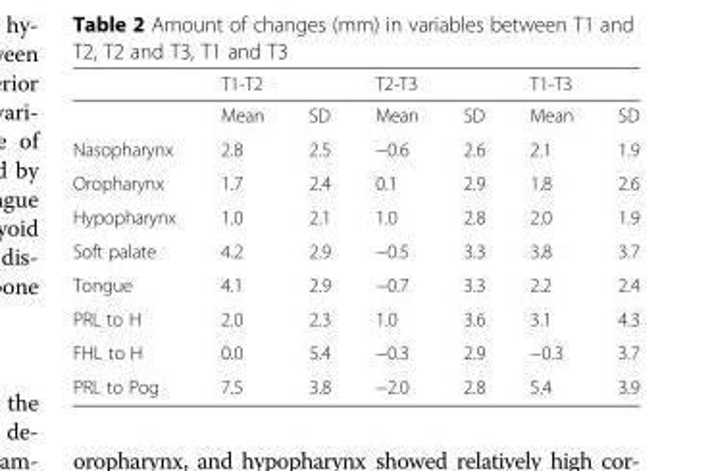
<table><thead><tr><td rowspan="2"></td><td colspan="2">T1-T2</td><td colspan="2">T2-T3</td><td colspan="2">T1-T3</td></tr><tr><td>Mean</td><td>SD</td><td>Mean</td><td>SD</td><td>Mean</td><td>SD</td></tr></thead><tbody><tr><td>Nasopharynx</td><td>2.8</td><td>2.5</td><td>−0.6</td><td>2.6</td><td>2.1</td><td>1.9</td></tr><tr><td>Oropharynx</td><td>1.7</td><td>2.4</td><td>0.1</td><td>2.9</td><td>1.8</td><td>2.6</td></tr><tr><td>Hypopharynx</td><td>1.0</td><td>2.1</td><td>1.0</td><td>2.8</td><td>2.0</td><td>1.9</td></tr><tr><td>Soft palate</td><td>4.2</td><td>2.9</td><td>−0.5</td><td>3.3</td><td>3.8</td><td>3.7</td></tr><tr><td>Tongue</td><td>4.1</td><td>2.9</td><td>−0.7</td><td>3.3</td><td>2.2</td><td>2.4</td></tr><tr><td>PRL to H</td><td>2.0</td><td>2.3</td><td>1.0</td><td>3.6</td><td>3.1</td><td>4.3</td></tr><tr><td>FHL to H</td><td>0.0</td><td>5.4</td><td>−0.3</td><td>2.9</td><td>−0.3</td><td>3.7</td></tr><tr><td>PRL to Pog</td><td>7.5</td><td>3.8</td><td>−2.0</td><td>2.8</td><td>5.4</td><td>3.9</td></tr></tbody></table>